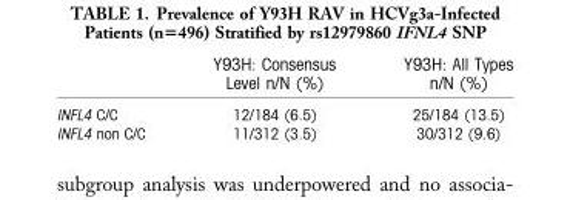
<table><thead><tr><td></td><td>Y93H: Consensus Level n/N (%)</td><td>Y93H: All Types n/N (%)</td></tr></thead><tbody><tr><td>INFL4 C/C</td><td>12/184 (6.5)</td><td>25/184 (13.5)</td></tr><tr><td>INFL4 non C/C</td><td>11/312 (3.5)</td><td>30/312 (9.6)</td></tr></tbody></table>